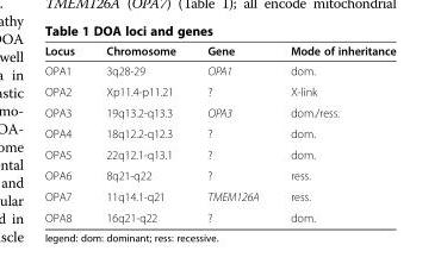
<table><thead><tr><td>Locus</td><td>Chromosome</td><td>Gene</td><td>Mode of inheritance</td></tr></thead><tbody><tr><td>OPA1</td><td>3q28-29</td><td>OPA1</td><td>dom.</td></tr><tr><td>OPA2</td><td>Xp11.4-p11.21</td><td>?</td><td>X-link</td></tr><tr><td>OPA3</td><td>19q13.2-q13.3</td><td>OPA3</td><td>dom./ress.</td></tr><tr><td>OPA4</td><td>18q12.2-q12.3</td><td>?</td><td>dom.</td></tr><tr><td>OPA5</td><td>22q12.1-q13.1</td><td>?</td><td>dom.</td></tr><tr><td>OPA6</td><td>8q21-q22</td><td>?</td><td>ress.</td></tr><tr><td>OPA7</td><td>11q14.1-q21</td><td>TMEM126A</td><td>ress.</td></tr><tr><td>OPA8</td><td>16q21-q22</td><td>?</td><td>dom.</td></tr></tbody></table>